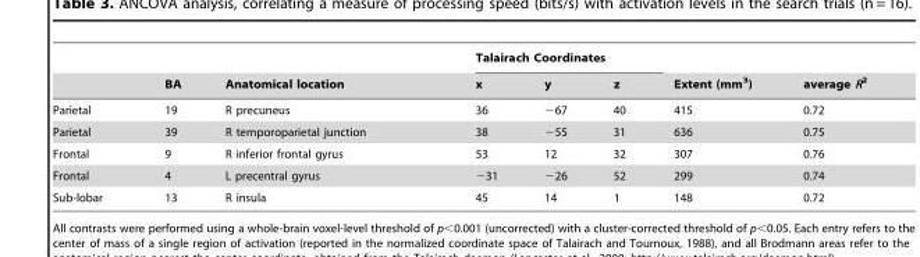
<table><thead><tr><td rowspan="2"></td><td rowspan="2">BA</td><td rowspan="2">Anatomical location</td><td colspan="3">Talairach Coordinates</td><td rowspan="2">Extent (mm<sup>3</sup>)</td><td rowspan="2">average R<sup>2</sup></td></tr><tr><td>x</td><td>y</td><td>z</td></tr></thead><tbody><tr><td>Parietal</td><td>19</td><td>R precuneus</td><td>36</td><td>−67</td><td>40</td><td>415</td><td>0.72</td></tr><tr><td>Parietal</td><td>39</td><td>R temporoparietal junction</td><td>38</td><td>−55</td><td>31</td><td>636</td><td>0.75</td></tr><tr><td>Frontal</td><td>9</td><td>R inferior frontal gyrus</td><td>53</td><td>12</td><td>32</td><td>307</td><td>0.76</td></tr><tr><td>Frontal</td><td>4</td><td>L precentral gyrus</td><td>−31</td><td>−26</td><td>52</td><td>299</td><td>0.74</td></tr><tr><td>Sub-lobar</td><td>13</td><td>R insula</td><td>45</td><td>14</td><td>1</td><td>148</td><td>0.72</td></tr></tbody></table>